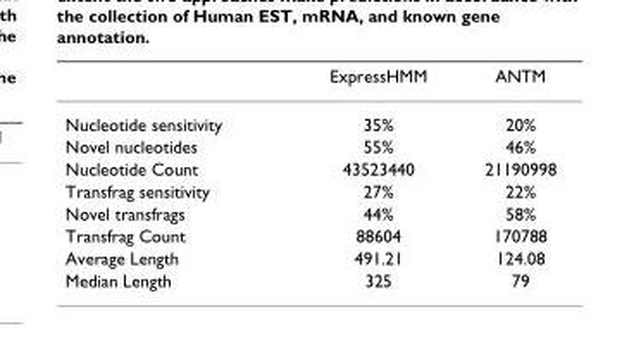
<table><thead><tr><td></td><td>ExpressHMM</td><td>ANTM</td></tr></thead><tbody><tr><td>Nucleotide sensitivity</td><td>35%</td><td>20%</td></tr><tr><td>Novel nucleotides</td><td>55%</td><td>46%</td></tr><tr><td>Nucleotide Count</td><td>43523440</td><td>21190998</td></tr><tr><td>Transfrag sensitivity</td><td>27%</td><td>22%</td></tr><tr><td>Novel transfrags</td><td>44%</td><td>58%</td></tr><tr><td>Transfrag Count</td><td>88604</td><td>170788</td></tr><tr><td>Average Length</td><td>491.21</td><td>124.08</td></tr><tr><td>Median Length</td><td>325</td><td>79</td></tr></tbody></table>